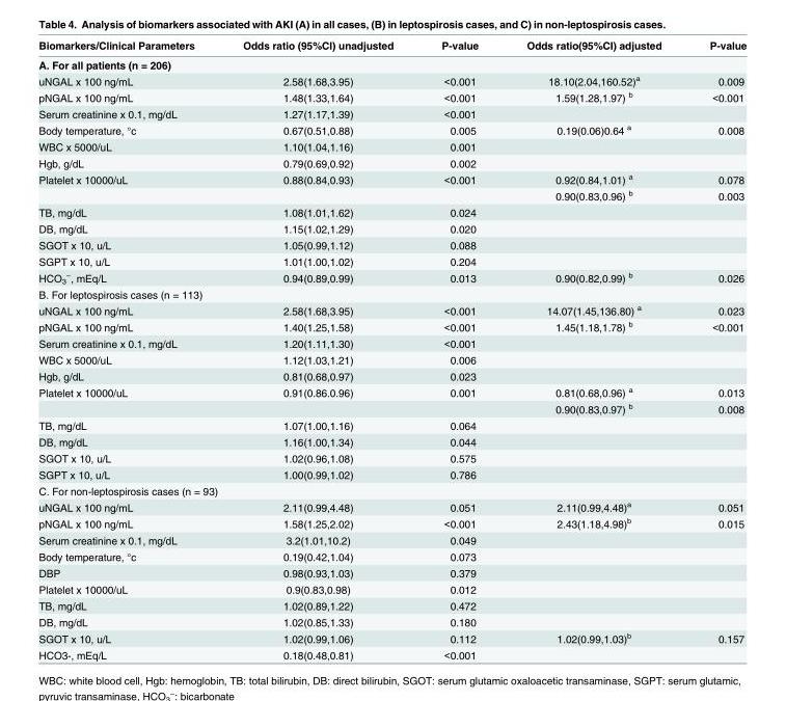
<table><thead><tr><td>Biomarkers/Clinical Parameters</td><td>Odds ratio (95%CI) unadjusted</td><td>P-value</td><td>Odds ratio(95%CI) adjusted</td><td>P-value</td></tr></thead><tbody><tr><td colspan="5">A. For all patients (n = 206)</td></tr><tr><td>uNGAL x 100 ng/mL</td><td>2.58(1.68,3.95)</td><td>&lt;0.001</td><td>18.10(2.04,160.52)<sup>a</sup></td><td>0.009</td></tr><tr><td>pNGAL x 100 ng/mL</td><td>1.48(1.33,1.64)</td><td>&lt;0.001</td><td>1.59(1.28,1.97) <sup>b</sup></td><td>&lt;0.001</td></tr><tr><td>Serum creatinine x 0.1, mg/dL</td><td>1.27(1.17,1.39)</td><td>&lt;0.001</td><td></td><td></td></tr><tr><td>Body temperature, °c</td><td>0.67(0.51,0.88)</td><td>0.005</td><td>0.19(0.06)0.64 <sup>a</sup></td><td>0.008</td></tr><tr><td>WBC x 5000/uL</td><td>1.10(1.04,1.16)</td><td>0.001</td><td></td><td></td></tr><tr><td>Hgb, g/dL</td><td>0.79(0.69,0.92)</td><td>0.002</td><td></td><td></td></tr><tr><td rowspan="2">Platelet x 10000/uL</td><td>0.88(0.84,0.93)</td><td>&lt;0.001</td><td>0.92(0.84,1.01) <sup>a</sup></td><td>0.078</td></tr><tr><td></td><td></td><td>0.90(0.83,0.96) <sup>b</sup></td><td>0.003</td></tr><tr><td>TB, mg/dL</td><td>1.08(1.01,1.62)</td><td>0.024</td><td></td><td></td></tr><tr><td>DB, mg/dL</td><td>1.15(1.02,1.29)</td><td>0.020</td><td></td><td></td></tr><tr><td>SGOT x 10, u/L</td><td>1.05(0.99,1.12)</td><td>0.088</td><td></td><td></td></tr><tr><td>SGPT x 10, u/L</td><td>1.01(1.00,1.02)</td><td>0.204</td><td></td><td></td></tr><tr><td>HCO<sub>3</sub> <sup>−</sup>, mEq/L</td><td>0.94(0.89,0.99)</td><td>0.013</td><td>0.90(0.82,0.99) <sup>b</sup></td><td>0.026</td></tr><tr><td colspan="5">B. For leptospirosis cases (n = 113)</td></tr><tr><td>uNGAL x 100 ng/mL</td><td>2.58(1.68,3.95)</td><td>&lt;0.001</td><td>14.07(1.45,136.80) <sup>a</sup></td><td>0.023</td></tr><tr><td>pNGAL x 100 ng/mL</td><td>1.40(1.25,1.58)</td><td>&lt;0.001</td><td>1.45(1.18,1.78) <sup>b</sup></td><td>&lt;0.001</td></tr><tr><td>Serum creatinine x 0.1, mg/dL</td><td>1.20(1.11,1.30)</td><td>&lt;0.001</td><td></td><td></td></tr><tr><td>WBC x 5000/uL</td><td>1.12(1.03,1.21)</td><td>0.006</td><td></td><td></td></tr><tr><td>Hgb, g/dL</td><td>0.81(0.68,0.97)</td><td>0.023</td><td></td><td></td></tr><tr><td rowspan="2">Platelet x 10000/uL</td><td>0.91(0.86.0.96)</td><td>0.001</td><td>0.81(0.68,0.96) <sup>a</sup></td><td>0.013</td></tr><tr><td></td><td></td><td>0.90(0.83,0.97) <sup>b</sup></td><td>0.008</td></tr><tr><td>TB, mg/dL</td><td>1.07(1.00,1.16)</td><td>0.064</td><td></td><td></td></tr><tr><td>DB, mg/dL</td><td>1.16(1.00,1.34)</td><td>0.044</td><td></td><td></td></tr><tr><td>SGOT x 10, u/L</td><td>1.02(0.96,1.08)</td><td>0.575</td><td></td><td></td></tr><tr><td>SGPT x 10, u/L</td><td>1.00(0.99,1.02)</td><td>0.786</td><td></td><td></td></tr><tr><td colspan="5">C. For non-leptospirosis cases (n = 93)</td></tr><tr><td>uNGAL x 100 ng/mL</td><td>2.11(0.99,4.48)</td><td>0.051</td><td>2.11(0.99,4.48)<sup>a</sup></td><td>0.051</td></tr><tr><td>pNGAL x 100 ng/mL</td><td>1.58(1.25,2.02)</td><td>&lt;0.001</td><td>2.43(1.18,4.98)<sup>b</sup></td><td>0.015</td></tr><tr><td>Serum creatinine x 0.1, mg/dL</td><td>3.2(1.01,10.2)</td><td>0.049</td><td></td><td></td></tr><tr><td>Body temperature, °c</td><td>0.19(0.42,1.04)</td><td>0.073</td><td></td><td></td></tr><tr><td>DBP</td><td>0.98(0.93,1.03)</td><td>0.379</td><td></td><td></td></tr><tr><td>Platelet x 10000/uL</td><td>0.9(0.83,0.98)</td><td>0.012</td><td></td><td></td></tr><tr><td>TB, mg/dL</td><td>1.02(0.89,1.22)</td><td>0.472</td><td></td><td></td></tr><tr><td>DB, mg/dL</td><td>1.02(0.85,1.33)</td><td>0.180</td><td></td><td></td></tr><tr><td>SGOT x 10, u/L</td><td>1.02(0.99,1.06)</td><td>0.112</td><td>1.02(0.99,1.03)<sup>b</sup></td><td>0.157</td></tr><tr><td>HCO3-, mEq/L</td><td>0.18(0.48,0.81)</td><td>&lt;0.001</td><td></td><td></td></tr></tbody></table>